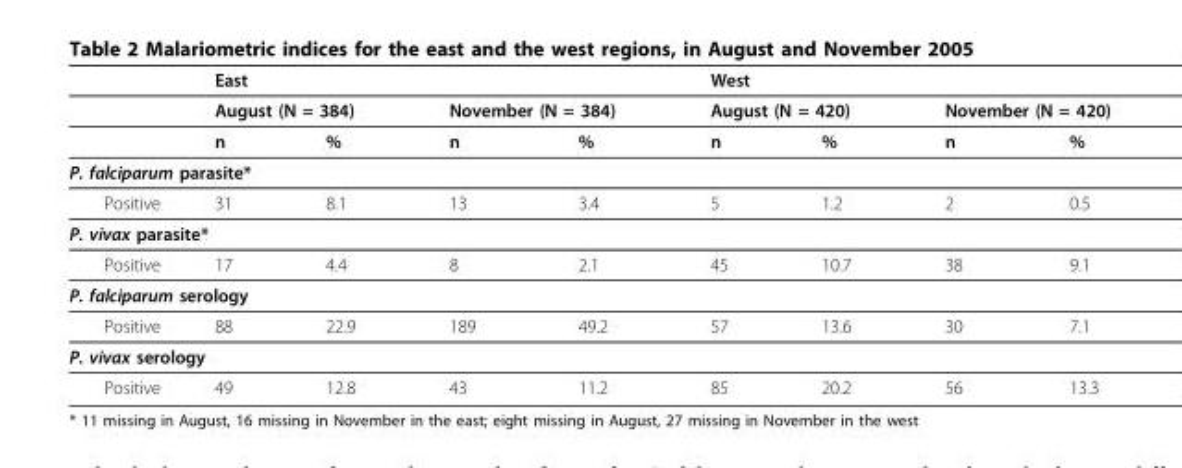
<table><thead><tr><td rowspan="3"></td><td colspan="4">East</td><td colspan="4">West</td></tr><tr><td colspan="2">August (N = 384)</td><td colspan="2">November (N = 384)</td><td colspan="2">August (N = 420)</td><td colspan="2">November (N = 420)</td></tr><tr><td>n</td><td>%</td><td>n</td><td>%</td><td>n</td><td>%</td><td>n</td><td>%</td></tr></thead><tbody><tr><td colspan="9">P. falciparum parasite*</td></tr><tr><td>Positive</td><td>31</td><td>8.1</td><td>13</td><td>3.4</td><td>5</td><td>1.2</td><td>2</td><td>0.5</td></tr><tr><td colspan="9">P. vivax parasite*</td></tr><tr><td>Positive</td><td>17</td><td>4.4</td><td>8</td><td>2.1</td><td>45</td><td>10.7</td><td>38</td><td>9.1</td></tr><tr><td colspan="9">P. falciparum serology</td></tr><tr><td>Positive</td><td>88</td><td>22.9</td><td>189</td><td>49.2</td><td>57</td><td>13.6</td><td>30</td><td>7.1</td></tr><tr><td colspan="9">P. vivax serology</td></tr><tr><td>Positive</td><td>49</td><td>12.8</td><td>43</td><td>11.2</td><td>85</td><td>20.2</td><td>56</td><td>13.3</td></tr></tbody></table>